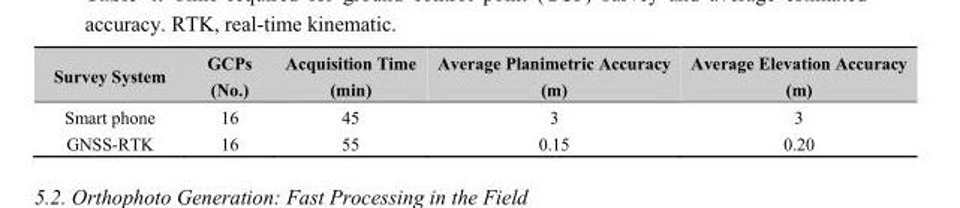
<table><thead><tr><td>Survey System</td><td>GCPs (No.)</td><td>Acquisition Time (min)</td><td>Average Planimetric Accuracy (m)</td><td>Average Elevation Accuracy (m)</td></tr></thead><tbody><tr><td>Smart phone</td><td>16</td><td>45</td><td>3</td><td>3</td></tr><tr><td>GNSS-RTK</td><td>16</td><td>55</td><td>0.15</td><td>0.20</td></tr></tbody></table>